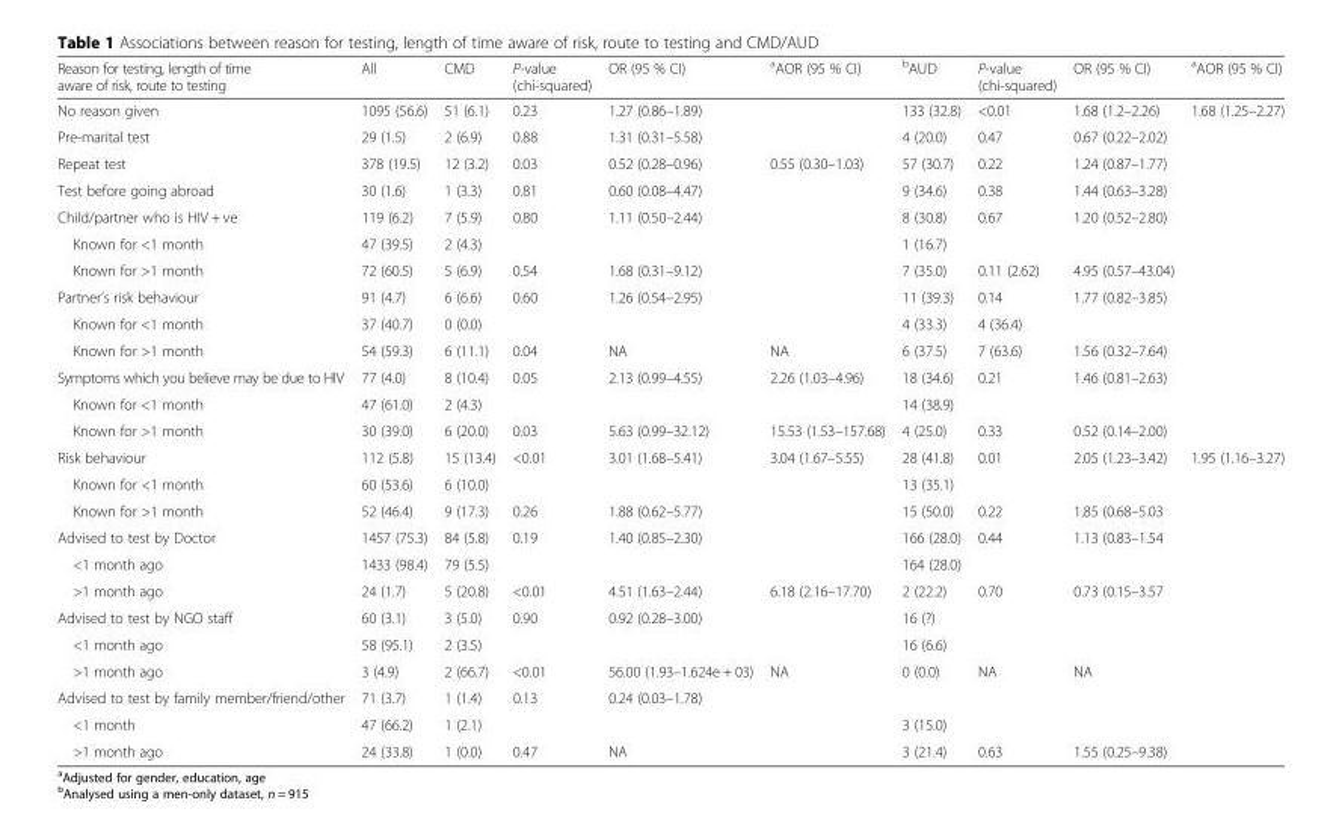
<table><thead><tr><td>Reason for testing, length of time aware of risk, route to testing</td><td>All</td><td>CMD</td><td>P-value (chi-squared)</td><td>OR (95 % CI)</td><td><sup>a</sup>AOR (95 % CI)</td><td><sup>b</sup>AUD</td><td>P-value (chi-squared)</td><td>OR (95 % CI)</td><td><sup>a</sup>AOR (95 % CI)</td></tr></thead><tbody><tr><td>No reason given</td><td>1095 (56.6)</td><td>51 (6.1)</td><td>0.23</td><td>1.27 (0.86–1.89)</td><td></td><td>133 (32.8)</td><td>&lt;0.01</td><td>1.68 (1.2–2.26)</td><td>1.68 (1.25–2.27)</td></tr><tr><td>Pre-marital test</td><td>29 (1.5)</td><td>2 (6.9)</td><td>0.88</td><td>1.31 (0.31–5.58)</td><td></td><td>4 (20.0)</td><td>0.47</td><td>0.67 (0.22–2.02)</td><td></td></tr><tr><td>Repeat test</td><td>378 (19.5)</td><td>12 (3.2)</td><td>0.03</td><td>0.52 (0.28–0.96)</td><td>0.55 (0.30–1.03)</td><td>57 (30.7)</td><td>0.22</td><td>1.24 (0.87–1.77)</td><td></td></tr><tr><td>Test before going abroad</td><td>30 (1.6)</td><td>1 (3.3)</td><td>0.81</td><td>0.60 (0.08–4.47)</td><td></td><td>9 (34.6)</td><td>0.38</td><td>1.44 (0.63–3.28)</td><td></td></tr><tr><td>Child/partner who is HIV + ve</td><td>119 (6.2)</td><td>7 (5.9)</td><td>0.80</td><td>1.11 (0.50–2.44)</td><td></td><td>8 (30.8)</td><td>0.67</td><td>1.20 (0.52–2.80)</td><td></td></tr><tr><td>Known for &lt;1 month</td><td>47 (39.5)</td><td>2 (4.3)</td><td></td><td></td><td></td><td>1 (16.7)</td><td></td><td></td><td></td></tr><tr><td>Known for &gt;1 month</td><td>72 (60.5)</td><td>5 (6.9)</td><td>0.54</td><td>1.68 (0.31–9.12)</td><td></td><td>7 (35.0)</td><td>0.11 (2.62)</td><td>4.95 (0.57–43.04)</td><td></td></tr><tr><td>Partner’s risk behaviour</td><td>91 (4.7)</td><td>6 (6.6)</td><td>0.60</td><td>1.26 (0.54–2.95)</td><td></td><td>11 (39.3)</td><td>0.14</td><td>1.77 (0.82–3.85)</td><td></td></tr><tr><td>Known for &lt;1 month</td><td>37 (40.7)</td><td>0 (0.0)</td><td></td><td></td><td></td><td>4 (33.3)</td><td>4 (36.4)</td><td></td><td></td></tr><tr><td>Known for &gt;1 month</td><td>54 (59.3)</td><td>6 (11.1)</td><td>0.04</td><td>NA</td><td>NA</td><td>6 (37.5)</td><td>7 (63.6)</td><td>1.56 (0.32–7.64)</td><td></td></tr><tr><td>Symptoms which you believe may be due to HIV</td><td>77 (4.0)</td><td>8 (10.4)</td><td>0.05</td><td>2.13 (0.99–4.55)</td><td>2.26 (1.03–4.96)</td><td>18 (34.6)</td><td>0.21</td><td>1.46 (0.81–2.63)</td><td></td></tr><tr><td>Known for &lt;1 month</td><td>47 (61.0)</td><td>2 (4.3)</td><td></td><td></td><td></td><td>14 (38.9)</td><td></td><td></td><td></td></tr><tr><td>Known for &gt;1 month</td><td>30 (39.0)</td><td>6 (20.0)</td><td>0.03</td><td>5.63 (0.99–32.12)</td><td>15.53 (1.53–157.68)</td><td>4 (25.0)</td><td>0.33</td><td>0.52 (0.14–2.00)</td><td></td></tr><tr><td>Risk behaviour</td><td>112 (5.8)</td><td>15 (13.4)</td><td>&lt;0.01</td><td>3.01 (1.68–5.41)</td><td>3.04 (1.67–5.55)</td><td>28 (41.8)</td><td>0.01</td><td>2.05 (1.23–3.42)</td><td>1.95 (1.16–3.27)</td></tr><tr><td>Known for &lt;1 month</td><td>60 (53.6)</td><td>6 (10.0)</td><td></td><td></td><td></td><td>13 (35.1)</td><td></td><td></td><td></td></tr><tr><td>Known for &gt;1 month</td><td>52 (46.4)</td><td>9 (17.3)</td><td>0.26</td><td>1.88 (0.62–5.77)</td><td></td><td>15 (50.0)</td><td>0.22</td><td>1.85 (0.68–5.03</td><td></td></tr><tr><td>Advised to test by Doctor</td><td>1457 (75.3)</td><td>84 (5.8)</td><td>0.19</td><td>1.40 (0.85–2.30)</td><td></td><td>166 (28.0)</td><td>0.44</td><td>1.13 (0.83–1.54</td><td></td></tr><tr><td>&lt;1 month ago</td><td>1433 (98.4)</td><td>79 (5.5)</td><td></td><td></td><td></td><td>164 (28.0)</td><td></td><td></td><td></td></tr><tr><td>&gt;1 month ago</td><td>24 (1.7)</td><td>5 (20.8)</td><td>&lt;0.01</td><td>4.51 (1.63–2.44)</td><td>6.18 (2.16–17.70)</td><td>2 (22.2)</td><td>0.70</td><td>0.73 (0.15–3.57</td><td></td></tr><tr><td>Advised to test by NGO staff</td><td>60 (3.1)</td><td>3 (5.0)</td><td>0.90</td><td>0.92 (0.28–3.00)</td><td></td><td>16 (?)</td><td></td><td></td><td></td></tr><tr><td>&lt;1 month ago</td><td>58 (95.1)</td><td>2 (3.5)</td><td></td><td></td><td></td><td>16 (6.6)</td><td></td><td></td><td></td></tr><tr><td>&gt;1 month ago</td><td>3 (4.9)</td><td>2 (66.7)</td><td>&lt;0.01</td><td>56.00 (1.93–1.624e + 03)</td><td>NA</td><td>0 (0.0)</td><td>NA</td><td>NA</td><td></td></tr><tr><td>Advised to test by family member/friend/other</td><td>71 (3.7)</td><td>1 (1.4)</td><td>0.13</td><td>0.24 (0.03–1.78)</td><td></td><td></td><td></td><td></td><td></td></tr><tr><td>&lt;1 month</td><td>47 (66.2)</td><td>1 (2.1)</td><td></td><td></td><td></td><td>3 (15.0)</td><td></td><td></td><td></td></tr><tr><td>&gt;1 month ago</td><td>24 (33.8)</td><td>1 (0.0)</td><td>0.47</td><td>NA</td><td></td><td>3 (21.4)</td><td>0.63</td><td>1.55 (0.25–9.38)</td><td></td></tr></tbody></table>